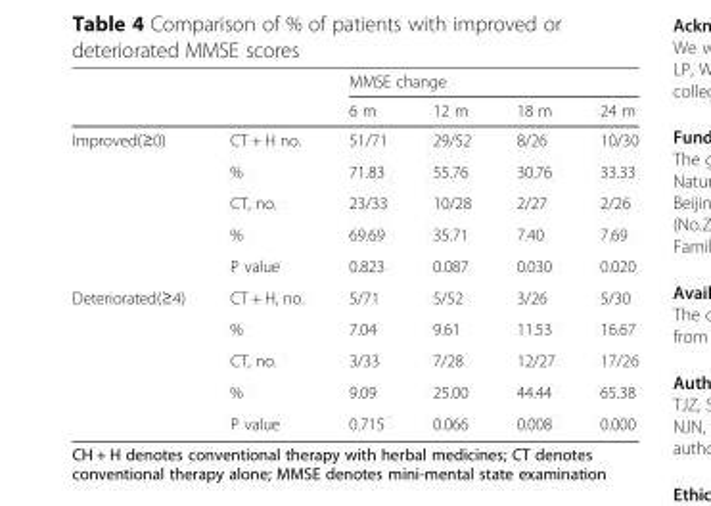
<table><thead><tr><td rowspan="2"></td><td rowspan="2"></td><td colspan="4">MMSE change</td></tr><tr><td>6 m</td><td>12 m</td><td>18 m</td><td>24 m</td></tr></thead><tbody><tr><td rowspan="5">Improved(≥0)</td><td>CT + H no.</td><td>51/71</td><td>29/52</td><td>8/26</td><td>10/30</td></tr><tr><td>%</td><td>71.83</td><td>55.76</td><td>30.76</td><td>33.33</td></tr><tr><td>CT, no.</td><td>23/33</td><td>10/28</td><td>2/27</td><td>2/26</td></tr><tr><td>%</td><td>69.69</td><td>35.71</td><td>7.40</td><td>7.69</td></tr><tr><td>P value</td><td>0.823</td><td>0.087</td><td>0.030</td><td>0.020</td></tr><tr><td rowspan="5">Deteriorated(≥4)</td><td>CT + H, no.</td><td>5/71</td><td>5/52</td><td>3/26</td><td>5/30</td></tr><tr><td>%</td><td>7.04</td><td>9.61</td><td>11.53</td><td>16.67</td></tr><tr><td>CT, no.</td><td>3/33</td><td>7/28</td><td>12/27</td><td>17/26</td></tr><tr><td>%</td><td>9.09</td><td>25.00</td><td>44.44</td><td>65.38</td></tr><tr><td>P value</td><td>0.715</td><td>0.066</td><td>0.008</td><td>0.000</td></tr></tbody></table>